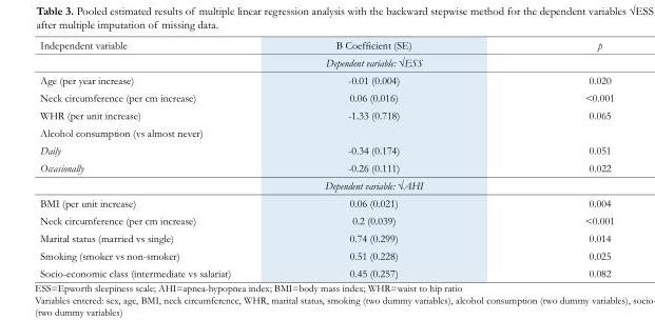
<table><thead><tr><td>Independent variable</td><td>B Coefficient (SE)</td><td>p</td></tr></thead><tbody><tr><td></td><td>Dependent variable: √ESS</td><td></td></tr><tr><td>Age (per year increase)</td><td>-0.01 (0.004)</td><td>0.020</td></tr><tr><td>Neck circumference (per cm increase)</td><td>0.06 (0.016)</td><td>&lt;0.001</td></tr><tr><td>WHR (per unit increase)</td><td>-1.33 (0.718)</td><td>0.065</td></tr><tr><td colspan="3">Alcohol consumption (vs almost never)</td></tr><tr><td>Daily</td><td>-0.34 (0.174)</td><td>0.051</td></tr><tr><td rowspan="2">Occasionally</td><td>-0.26 (0.111)</td><td>0.022</td></tr><tr><td>Dependent variable: √AHI</td><td></td></tr><tr><td>ΒΜΙ (per unit increase)</td><td>0.06 (0.021)</td><td>0.004</td></tr><tr><td>Neck circumference (per cm increase)</td><td>0.2 (0.039)</td><td>&lt;0.001</td></tr><tr><td>Marital status (married vs single)</td><td>0.74 (0.299)</td><td>0.014</td></tr><tr><td>Smoking (smoker vs non-smoker)</td><td>0.51 (0.228)</td><td>0.025</td></tr><tr><td>Socio-economic class (intermediate vs salariat)</td><td>0.45 (0.257)</td><td>0.082</td></tr></tbody></table>